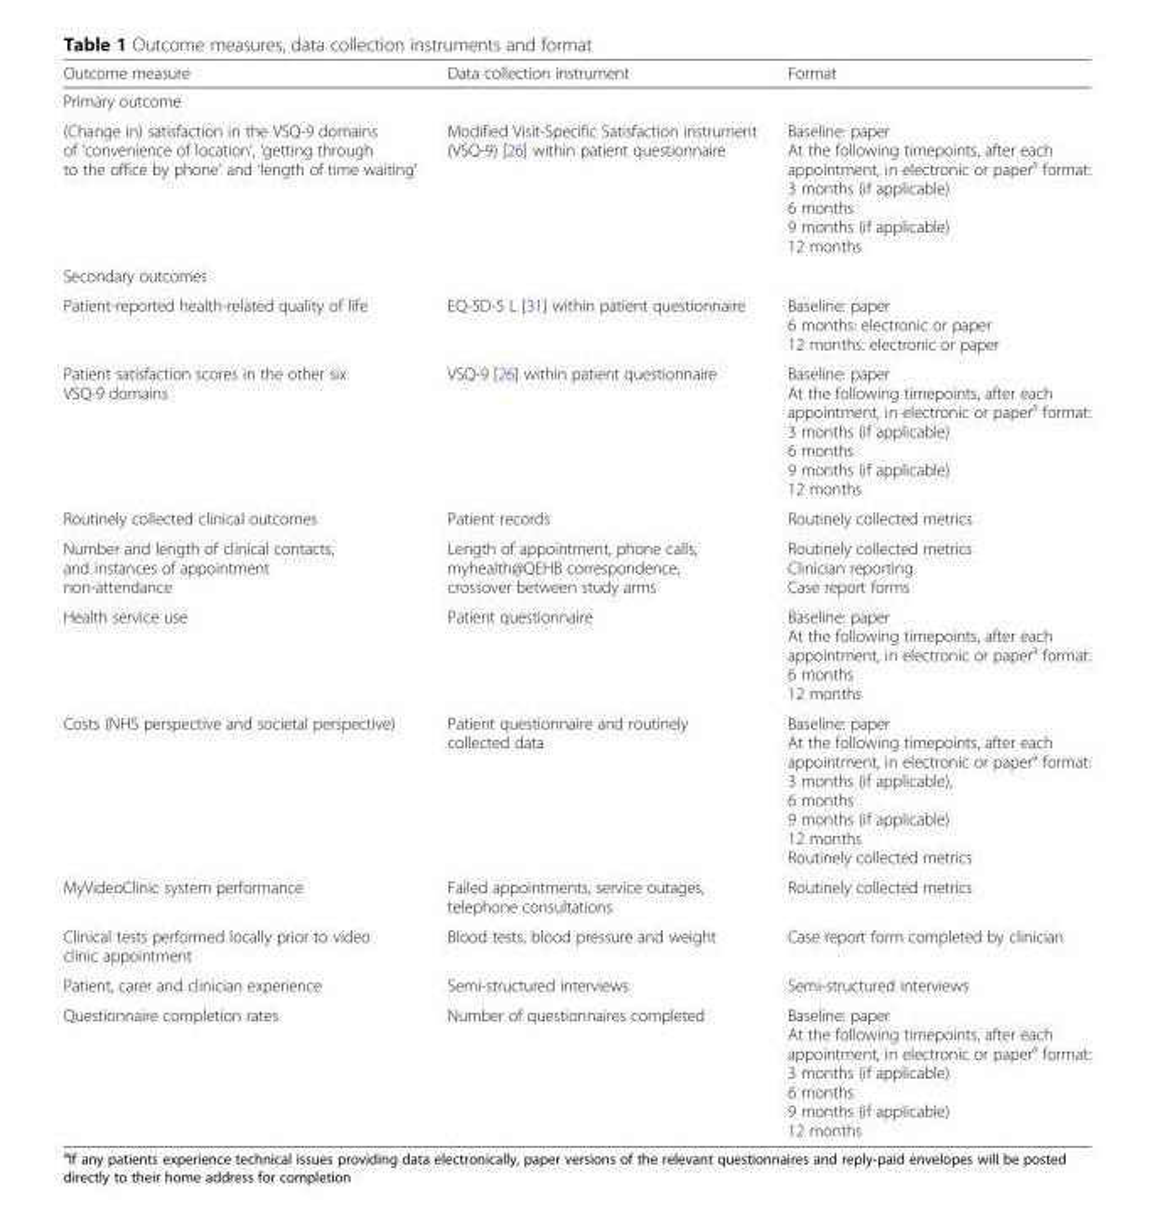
<table><thead><tr><td>Outcome measure</td><td>Data collection instrument</td><td>Format</td></tr></thead><tbody><tr><td colspan="3">Primary outcome</td></tr><tr><td>(Change in) satisfaction in the VSQ-9 domains of ‘convenience of location’, ‘getting through to the office by phone’ and ‘length of time waiting’</td><td>Modified Visit-Specific Satisfaction instrument (VSQ-9) [26] within patient questionnaire</td><td>Baseline: paper At the following timepoints, after each appointment, in electronic or paper<sup>a</sup> format: 3 months (if applicable) 6 months 9 months (if applicable) 12 months</td></tr><tr><td colspan="3">Secondary outcomes</td></tr><tr><td>Patient-reported health-related quality of life</td><td>EQ-5D-5 L [31] within patient questionnaire</td><td>Baseline: paper 6 months: electronic or paper 12 months: electronic or paper</td></tr><tr><td>Patient satisfaction scores in the other six VSQ-9 domains</td><td>VSQ-9 [26] within patient questionnaire</td><td>Baseline: paper At the following timepoints, after each appointment, in electronic or paper<sup>a</sup> format: 3 months (if applicable) 6 months 9 months (if applicable) 12 months</td></tr><tr><td>Routinely collected clinical outcomes</td><td>Patient records</td><td>Routinely collected metrics</td></tr><tr><td>Number and length of clinical contacts, and instances of appointment non-attendance</td><td>Length of appointment, phone calls, myhealth@QEHB correspondence, crossover between study arms</td><td>Routinely collected metrics Clinician reporting Case report forms</td></tr><tr><td>Health service use</td><td>Patient questionnaire</td><td>Baseline: paper At the following timepoints, after each appointment, in electronic or paper<sup>a</sup> format: 6 months 12 months</td></tr><tr><td>Costs (NHS perspective and societal perspective)</td><td>Patient questionnaire and routinely collected data</td><td>Baseline: paper At the following timepoints, after each appointment, in electronic or paper<sup>a</sup> format: 3 months (if applicable), 6 months 9 months (if applicable) 12 months Routinely collected metrics</td></tr><tr><td>MyVideoClinic system performance</td><td>Failed appointments, service outages, telephone consultations</td><td>Routinely collected metrics</td></tr><tr><td>Clinical tests performed locally prior to video clinic appointment</td><td>Blood tests, blood pressure and weight</td><td>Case report form completed by clinician</td></tr><tr><td>Patient, carer and clinician experience</td><td>Semi-structured interviews</td><td>Semi-structured interviews</td></tr><tr><td>Questionnaire completion rates</td><td>Number of questionnaires completed</td><td>Baseline: paper At the following timepoints, after each appointment, in electronic or paper<sup>a</sup> format: 3 months (if applicable) 6 months 9 months (if applicable) 12 months</td></tr></tbody></table>